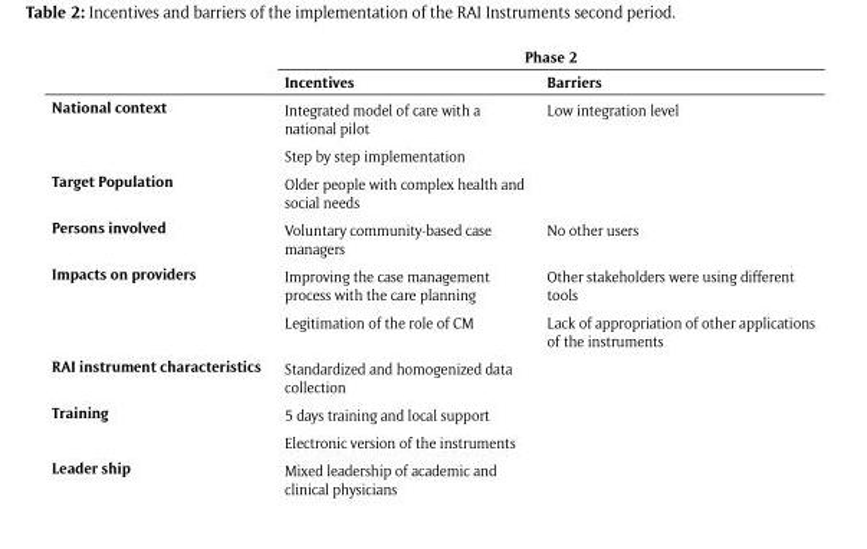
<table><thead><tr><td rowspan="2"></td><td colspan="2">Phase 2</td></tr><tr><td>Incentives</td><td>Barriers</td></tr></thead><tbody><tr><td rowspan="2">National context</td><td>Integrated model of care with a national pilot</td><td>Low integration level</td></tr><tr><td>Step by step implementation</td><td></td></tr><tr><td>Target Population</td><td>Older people with complex health and social needs</td><td></td></tr><tr><td>Persons involved</td><td>Voluntary community-based case managers</td><td>No other users</td></tr><tr><td rowspan="2">Impacts on providers</td><td>Improving the case management process with the care planning</td><td>Other stakeholders were using different tools</td></tr><tr><td>Legitimation of the role of CM</td><td>Lack of appropriation of other applications of the instruments</td></tr><tr><td>RAI instrument characteristics</td><td>Standardized and homogenized data collection</td><td></td></tr><tr><td rowspan="2">Training</td><td>5 days training and local support</td><td></td></tr><tr><td>Electronic version of the instruments</td><td></td></tr><tr><td>Leader ship</td><td>Mixed leadership of academic and clinical physicians</td><td></td></tr></tbody></table>